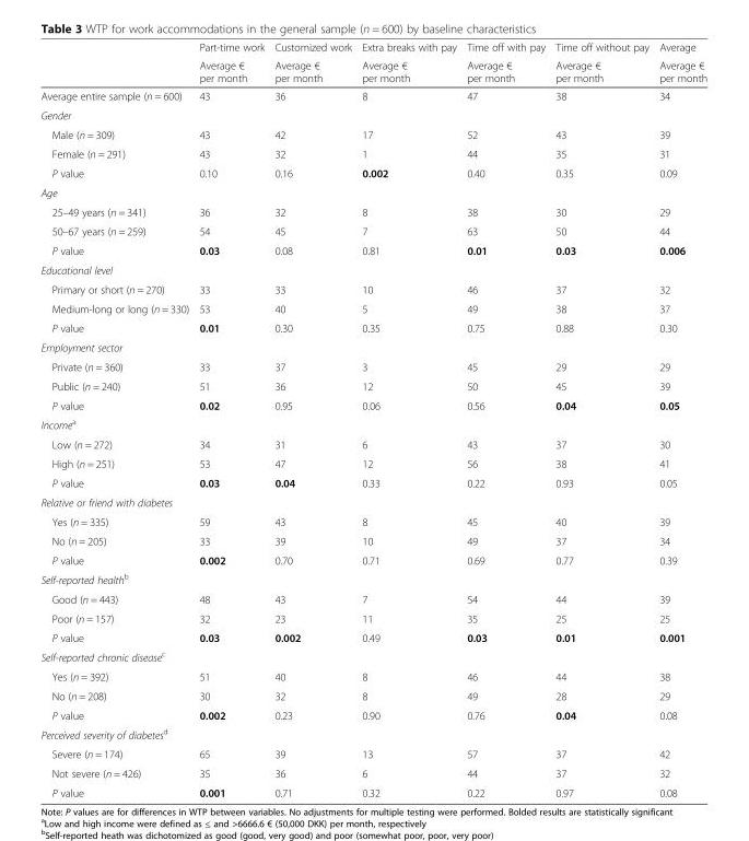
<table><thead><tr><td rowspan="2"></td><td rowspan="2">Part-time work Average € per month</td><td rowspan="2">Customized work Average € per month</td><td rowspan="2">Extra breaks with pay Average € per month</td><td rowspan="2">Time off with pay Average € per month</td><td rowspan="2">Time off without pay Average € per month</td><td rowspan="2">Average Average € per month</td></tr><tr></tr></thead><tbody><tr><td>Average entire sample (n = 600)</td><td>43</td><td>36</td><td>8</td><td>47</td><td>38</td><td>34</td></tr><tr><td colspan="7">Gender</td></tr><tr><td>Male (n = 309)</td><td>43</td><td>42</td><td>17</td><td>52</td><td>43</td><td>39</td></tr><tr><td>Female (n = 291)</td><td>43</td><td>32</td><td>1</td><td>44</td><td>35</td><td>31</td></tr><tr><td>P value</td><td>0.10</td><td>0.16</td><td>0.002</td><td>0.40</td><td>0.35</td><td>0.09</td></tr><tr><td colspan="7">Age</td></tr><tr><td>25–49 years (n = 341)</td><td>36</td><td>32</td><td>8</td><td>38</td><td>30</td><td>29</td></tr><tr><td>50–67 years (n = 259)</td><td>54</td><td>45</td><td>7</td><td>63</td><td>50</td><td>44</td></tr><tr><td>P value</td><td>0.03</td><td>0.08</td><td>0.81</td><td>0.01</td><td>0.03</td><td>0.006</td></tr><tr><td colspan="7">Educational level</td></tr><tr><td>Primary or short (n = 270)</td><td>33</td><td>33</td><td>10</td><td>46</td><td>37</td><td>32</td></tr><tr><td>Medium-long or long (n = 330)</td><td>53</td><td>40</td><td>5</td><td>49</td><td>38</td><td>37</td></tr><tr><td>P value</td><td>0.01</td><td>0.30</td><td>0.35</td><td>0.75</td><td>0.88</td><td>0.30</td></tr><tr><td colspan="7">Employment sector</td></tr><tr><td>Private (n = 360)</td><td>33</td><td>37</td><td>3</td><td>45</td><td>29</td><td>29</td></tr><tr><td>Public (n = 240)</td><td>51</td><td>36</td><td>12</td><td>50</td><td>45</td><td>39</td></tr><tr><td>P value</td><td>0.02</td><td>0.95</td><td>0.06</td><td>0.56</td><td>0.04</td><td>0.05</td></tr><tr><td colspan="7">Income<sup>a</sup></td></tr><tr><td>Low (n = 272)</td><td>34</td><td>31</td><td>6</td><td>43</td><td>37</td><td>30</td></tr><tr><td>High (n = 251)</td><td>53</td><td>47</td><td>12</td><td>56</td><td>38</td><td>41</td></tr><tr><td>P value</td><td>0.03</td><td>0.04</td><td>0.33</td><td>0.22</td><td>0.93</td><td>0.05</td></tr><tr><td colspan="7">Relative or friend with diabetes</td></tr><tr><td>Yes (n = 335)</td><td>59</td><td>43</td><td>8</td><td>45</td><td>40</td><td>39</td></tr><tr><td>No (n = 205)</td><td>33</td><td>39</td><td>10</td><td>49</td><td>37</td><td>34</td></tr><tr><td>P value</td><td>0.002</td><td>0.70</td><td>0.71</td><td>0.69</td><td>0.77</td><td>0.39</td></tr><tr><td colspan="7">Self-reported health<sup>b</sup></td></tr><tr><td>Good (n = 443)</td><td>48</td><td>43</td><td>7</td><td>54</td><td>44</td><td>39</td></tr><tr><td>Poor (n = 157)</td><td>32</td><td>23</td><td>11</td><td>35</td><td>25</td><td>25</td></tr><tr><td>P value</td><td>0.03</td><td>0.002</td><td>0.49</td><td>0.03</td><td>0.01</td><td>0.001</td></tr><tr><td colspan="7">Self-reported chronic disease<sup>c</sup></td></tr><tr><td>Yes (n = 392)</td><td>51</td><td>40</td><td>8</td><td>46</td><td>44</td><td>38</td></tr><tr><td>No (n = 208)</td><td>30</td><td>32</td><td>8</td><td>49</td><td>28</td><td>29</td></tr><tr><td>P value</td><td>0.002</td><td>0.23</td><td>0.90</td><td>0.76</td><td>0.04</td><td>0.08</td></tr><tr><td colspan="7">Perceived severity of diabetes<sup>d</sup></td></tr><tr><td>Severe (n = 174)</td><td>65</td><td>39</td><td>13</td><td>57</td><td>37</td><td>42</td></tr><tr><td>Not severe (n = 426)</td><td>35</td><td>36</td><td>6</td><td>44</td><td>37</td><td>32</td></tr><tr><td>P value</td><td>0.001</td><td>0.71</td><td>0.32</td><td>0.22</td><td>0.97</td><td>0.08</td></tr></tbody></table>